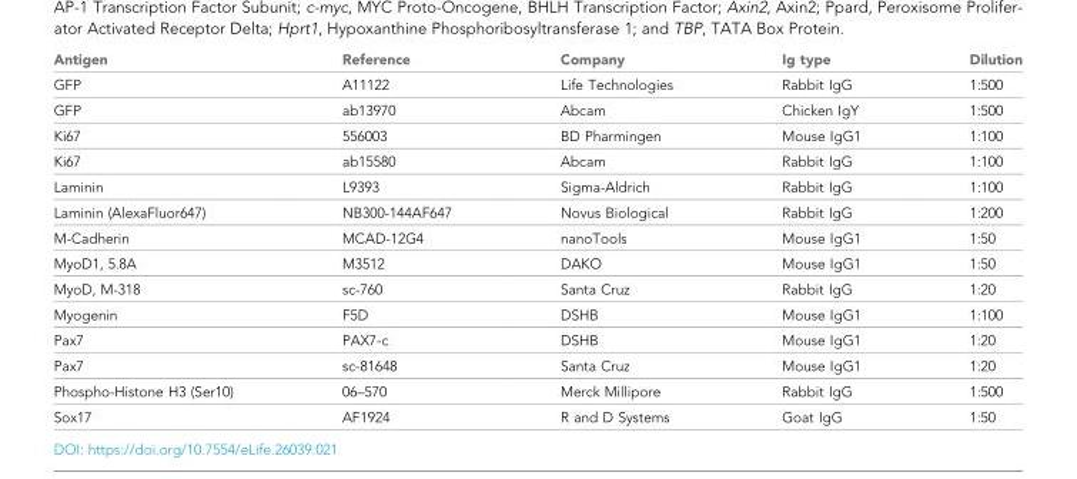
<table><thead><tr><td>Antigen</td><td>Reference</td><td>Company</td><td>Ig type</td><td>Dilution</td></tr></thead><tbody><tr><td>GFP</td><td>A11122</td><td>Life Technologies</td><td>Rabbit IgG</td><td>1:500</td></tr><tr><td>GFP</td><td>ab13970</td><td>Abcam</td><td>Chicken IgY</td><td>1:500</td></tr><tr><td>Ki67</td><td>556003</td><td>BD Pharmingen</td><td>Mouse IgG1</td><td>1:100</td></tr><tr><td>Ki67</td><td>ab15580</td><td>Abcam</td><td>Rabbit IgG</td><td>1:100</td></tr><tr><td>Laminin</td><td>L9393</td><td>Sigma-Aldrich</td><td>Rabbit IgG</td><td>1:100</td></tr><tr><td>Laminin (AlexaFluor647)</td><td>NB300-144AF647</td><td>Novus Biological</td><td>Rabbit IgG</td><td>1:200</td></tr><tr><td>M-Cadherin</td><td>MCAD-12G4</td><td>nanoTools</td><td>Mouse IgG1</td><td>1:50</td></tr><tr><td>MyoD1, 5.8A</td><td>M3512</td><td>DAKO</td><td>Mouse IgG1</td><td>1:50</td></tr><tr><td>MyoD, M-318</td><td>sc-760</td><td>Santa Cruz</td><td>Rabbit IgG</td><td>1:20</td></tr><tr><td>Myogenin</td><td>F5D</td><td>DSHB</td><td>Mouse IgG1</td><td>1:100</td></tr><tr><td>Pax7</td><td>PAX7-c</td><td>DSHB</td><td>Mouse IgG1</td><td>1:20</td></tr><tr><td>Pax7</td><td>sc-81648</td><td>Santa Cruz</td><td>Mouse IgG1</td><td>1:20</td></tr><tr><td>Phospho-Histone H3 (Ser10)</td><td>06–570</td><td>Merck Millipore</td><td>Rabbit IgG</td><td>1:500</td></tr><tr><td>Sox17</td><td>AF1924</td><td>R and D Systems</td><td>Goat IgG</td><td>1:50</td></tr></tbody></table>